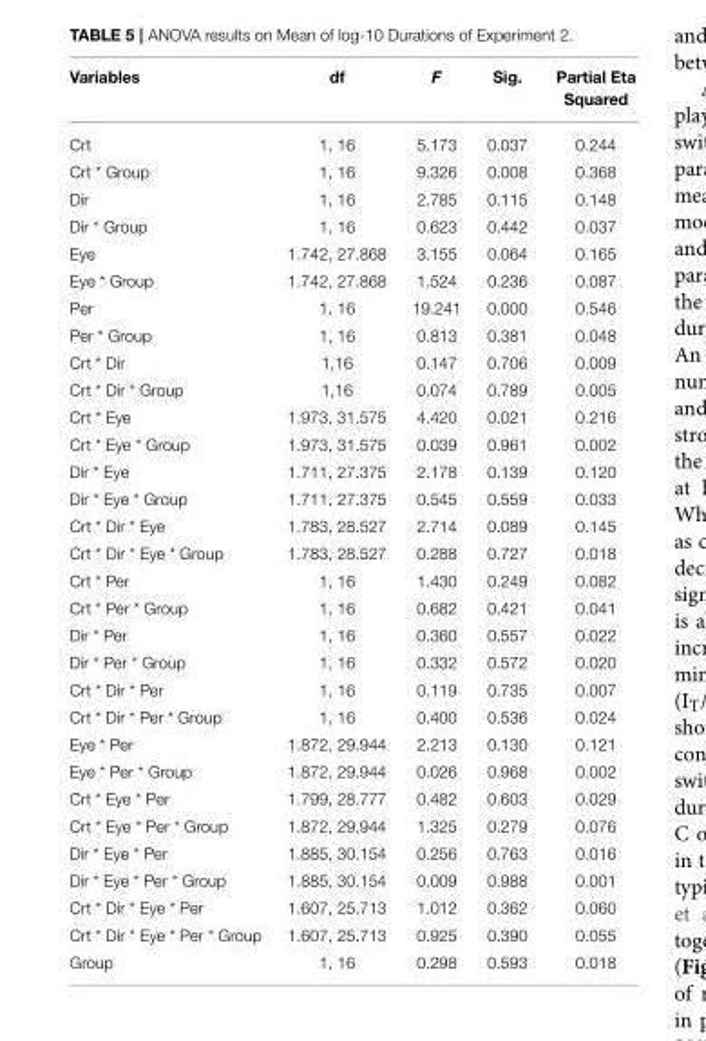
<table><thead><tr><td>Variables</td><td>df</td><td>F</td><td>Sig.</td><td>Partial Eta Squared</td></tr></thead><tbody><tr><td>Crt</td><td>1, 16</td><td>5.173</td><td>0.037</td><td>0.244</td></tr><tr><td>Crt * Group</td><td>1, 16</td><td>9.326</td><td>0.008</td><td>0.368</td></tr><tr><td>Dir</td><td>1, 16</td><td>2.785</td><td>0.115</td><td>0.148</td></tr><tr><td>Dir * Group</td><td>1, 16</td><td>0.623</td><td>0.442</td><td>0.037</td></tr><tr><td>Eye</td><td>1.742, 27.868</td><td>3.155</td><td>0.064</td><td>0.165</td></tr><tr><td>Eye * Group</td><td>1.742, 27.868</td><td>1.524</td><td>0.236</td><td>0.087</td></tr><tr><td>Per</td><td>1, 16</td><td>19.241</td><td>0.000</td><td>0.546</td></tr><tr><td>Per * Group</td><td>1, 16</td><td>0.813</td><td>0.381</td><td>0.048</td></tr><tr><td>Crt * Dir</td><td>1,16</td><td>0.147</td><td>0.706</td><td>0.009</td></tr><tr><td>Crt * Dir * Group</td><td>1,16</td><td>0.074</td><td>0.789</td><td>0.005</td></tr><tr><td>Crt * Eye</td><td>1.973, 31.575</td><td>4.420</td><td>0.021</td><td>0.216</td></tr><tr><td>Crt * Eye * Group</td><td>1.973, 31.575</td><td>0.039</td><td>0.961</td><td>0.002</td></tr><tr><td>Dir * Eye</td><td>1.711, 27.375</td><td>2.178</td><td>0.139</td><td>0.120</td></tr><tr><td>Dir * Eye * Group</td><td>1.711, 27.375</td><td>0.545</td><td>0.559</td><td>0.033</td></tr><tr><td>Crt * Dir * Eye</td><td>1.783, 28.527</td><td>2.714</td><td>0.089</td><td>0.145</td></tr><tr><td>Crt * Dir * Eye * Group</td><td>1.783, 28.527</td><td>0.288</td><td>0.727</td><td>0.018</td></tr><tr><td>Crt * Per</td><td>1, 16</td><td>1.430</td><td>0.249</td><td>0.082</td></tr><tr><td>Crt * Per * Group</td><td>1, 16</td><td>0.682</td><td>0.421</td><td>0.041</td></tr><tr><td>Dir * Per</td><td>1, 16</td><td>0.360</td><td>0.557</td><td>0.022</td></tr><tr><td>Dir * Per * Group</td><td>1, 16</td><td>0.332</td><td>0.572</td><td>0.020</td></tr><tr><td>Crt * Dir * Per</td><td>1, 16</td><td>0.119</td><td>0.735</td><td>0.007</td></tr><tr><td>Crt * Dir * Per * Group</td><td>1, 16</td><td>0.400</td><td>0.536</td><td>0.024</td></tr><tr><td>Eye * Per</td><td>1.872, 29.944</td><td>2.213</td><td>0.130</td><td>0.121</td></tr><tr><td>Eye * Per * Group</td><td>1.872, 29.944</td><td>0.026</td><td>0.968</td><td>0.002</td></tr><tr><td>Crt * Eye * Per</td><td>1.799, 28.777</td><td>0.482</td><td>0.603</td><td>0.029</td></tr><tr><td>Crt * Eye * Per * Group</td><td>1.872, 29.944</td><td>1.325</td><td>0.279</td><td>0.076</td></tr><tr><td>Dir * Eye * Per</td><td>1.885, 30.154</td><td>0.256</td><td>0.763</td><td>0.016</td></tr><tr><td>Dir * Eye * Per * Group</td><td>1.885, 30.154</td><td>0.009</td><td>0.988</td><td>0.001</td></tr><tr><td>Crt * Dir * Eye * Per</td><td>1.607, 25.713</td><td>1.012</td><td>0.362</td><td>0.060</td></tr><tr><td>Crt * Dir * Eye * Per * Group</td><td>1.607, 25.713</td><td>0.925</td><td>0.390</td><td>0.055</td></tr><tr><td>Group</td><td>1, 16</td><td>0.298</td><td>0.593</td><td>0.018</td></tr></tbody></table>